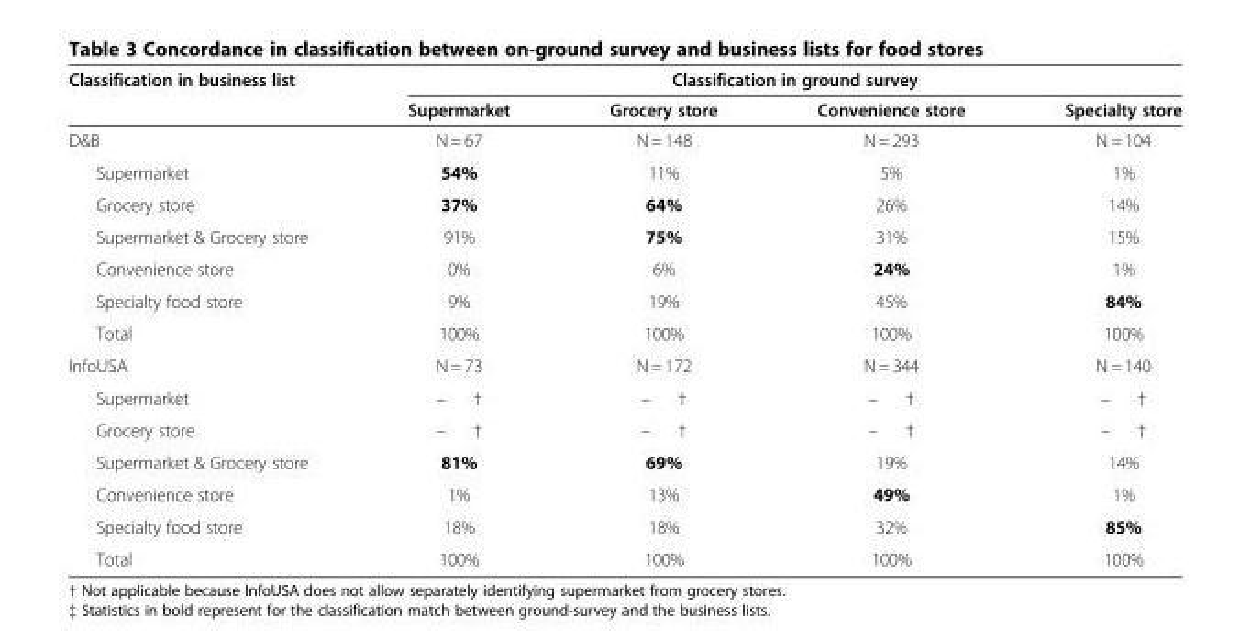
<table><thead><tr><td rowspan="2">Classification in business list</td><td colspan="4">Classification in ground survey</td></tr><tr><td>Supermarket</td><td>Grocery store</td><td>Convenience store</td><td>Specialty store</td></tr></thead><tbody><tr><td>D&amp;B</td><td>N = 67</td><td>N = 148</td><td>N = 293</td><td>N = 104</td></tr><tr><td>Supermarket</td><td>54%</td><td>11%</td><td>5%</td><td>1%</td></tr><tr><td>Grocery store</td><td>37%</td><td>64%</td><td>26%</td><td>14%</td></tr><tr><td>Supermarket &amp; Grocery store</td><td>91%</td><td>75%</td><td>31%</td><td>15%</td></tr><tr><td>Convenience store</td><td>0%</td><td>6%</td><td>24%</td><td>1%</td></tr><tr><td>Specialty food store</td><td>9%</td><td>19%</td><td>45%</td><td>84%</td></tr><tr><td>Total</td><td>100%</td><td>100%</td><td>100%</td><td>100%</td></tr><tr><td>InfoUSA</td><td>N = 73</td><td>N = 172</td><td>N = 344</td><td>N = 140</td></tr><tr><td>Supermarket</td><td>– †</td><td>– †</td><td>– †</td><td>– †</td></tr><tr><td>Grocery store</td><td>– †</td><td>– †</td><td>– †</td><td>– †</td></tr><tr><td>Supermarket &amp; Grocery store</td><td>81%</td><td>69%</td><td>19%</td><td>14%</td></tr><tr><td>Convenience store</td><td>1%</td><td>13%</td><td>49%</td><td>1%</td></tr><tr><td>Specialty food store</td><td>18%</td><td>18%</td><td>32%</td><td>85%</td></tr><tr><td>Total</td><td>100%</td><td>100%</td><td>100%</td><td>100%</td></tr></tbody></table>